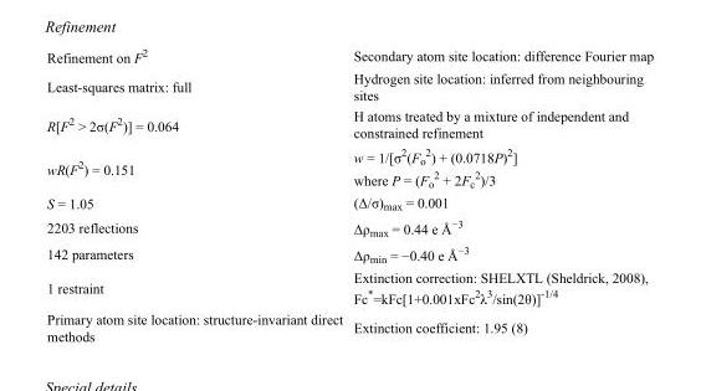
<table><tbody><tr><td>Refinement on F<sup>2</sup></td><td>Secondary atom site location: difference Fourier map</td></tr><tr><td>Least-squares matrix: full</td><td>Hydrogen site location: inferred from neighbouring sites</td></tr><tr><td>R[F<sup>2</sup> &gt; 2σ(F<sup>2</sup>)] = 0.064</td><td>H atoms treated by a mixture of independent and constrained refinement</td></tr><tr><td>wR(F<sup>2</sup>) = 0.151</td><td>w = 1/[σ<sup>2</sup>(F<sub>o</sub> <sup>2</sup>) + (0.0718P)<sup>2</sup>] where P = (F<sub>o</sub> <sup>2</sup> + 2F<sub>c</sub> <sup>2</sup>)/3</td></tr><tr><td>S = 1.05</td><td>(Δ/σ)<sub>max</sub> = 0.001</td></tr><tr><td>2203 reflections</td><td>Δρ<sub>max</sub> = 0.44 e Å<sup>−3</sup></td></tr><tr><td>142 parameters</td><td>Δρ<sub>min</sub> = −0.40 e Å<sup>−3</sup></td></tr><tr><td>1 restraint</td><td>Extinction correction: SHELXTL (Sheldrick, 2008), Fc*=kFc[1+0.001xFc<sup>2</sup>λ<sup>3</sup>/sin(2θ)]<sup>-1/4</sup></td></tr><tr><td>Primary atom site location: structure-invariant direct methods</td><td>Extinction coefficient: 1.95 (8)</td></tr></tbody></table>